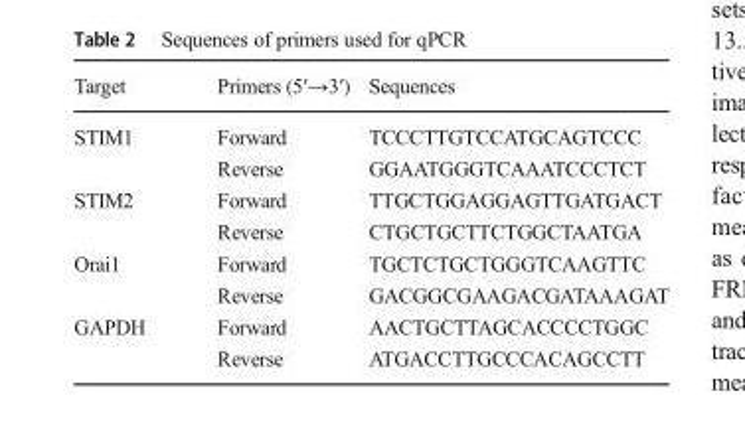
<table><thead><tr><td>Target</td><td>Primers (5′→3′)</td><td>Sequences</td></tr></thead><tbody><tr><td rowspan="2">STIM1</td><td>Forward</td><td>TCCCTTGTCCATGCAGTCCC</td></tr><tr><td>Reverse</td><td>GGAATGGGTCAAATCCCTCT</td></tr><tr><td rowspan="2">STIM2</td><td>Forward</td><td>TTGCTGGAGGAGTTGATGACT</td></tr><tr><td>Reverse</td><td>CTGCTGCTTCTGGCTAATGA</td></tr><tr><td rowspan="2">Orai1</td><td>Forward</td><td>TGCTCTGCTGGGTCAAGTTC</td></tr><tr><td>Reverse</td><td>GACGGCGAAGACGATAAAGAT</td></tr><tr><td rowspan="2">GAPDH</td><td>Forward</td><td>AACTGCTTAGCACCCCTGGC</td></tr><tr><td>Reverse</td><td>ATGACCTTGCCCACAGCCTT</td></tr></tbody></table>